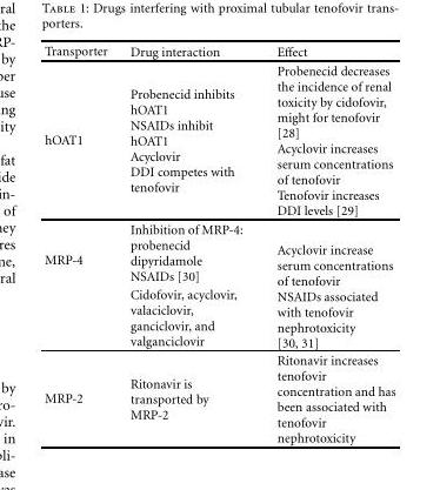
<table><thead><tr><td>Transporter</td><td>Drug interaction</td><td>Effect</td></tr></thead><tbody><tr><td>hOAT1</td><td>Probenecid inhibits hOAT1 NSAIDs inhibit hOAT1 Acyclovir DDI competes with tenofovir</td><td>Probenecid decreases the incidence of renal toxicity by cidofovir, might for tenofovir [28] Acyclovir increases serum concentrations of tenofovir Tenofovir increases DDI levels [29]</td></tr><tr><td rowspan="2">MRP-4</td><td>Inhibition of MRP-4: probenecid dipyridamole NSAIDs [30]</td><td rowspan="2">Acyclovir increase serum concentrations of tenofovir NSAIDs associated with tenofovir nephrotoxicity [30, 31]</td></tr><tr><td>Cidofovir, acyclovir, valaciclovir, ganciclovir, and valganciclovir</td></tr><tr><td>MRP-2</td><td>Ritonavir is transported by MRP-2</td><td>Ritonavir increases tenofovir concentration and has been associated with tenofovir nephrotoxicity</td></tr></tbody></table>